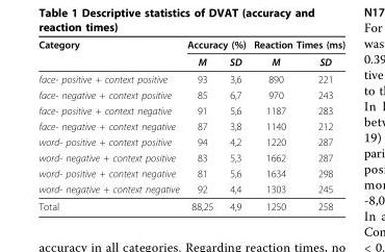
<table><thead><tr><td rowspan="2">Category</td><td colspan="2">Accuracy (%)</td><td colspan="2">Reaction Times (ms)</td></tr><tr><td>M</td><td>SD</td><td>M</td><td>SD</td></tr></thead><tbody><tr><td>face- positive + context positive</td><td>93</td><td>3,6</td><td>890</td><td>221</td></tr><tr><td>face- negative + context positive</td><td>85</td><td>6,7</td><td>970</td><td>243</td></tr><tr><td>face- positive + context negative</td><td>91</td><td>5,6</td><td>1187</td><td>283</td></tr><tr><td>face- negative + context negative</td><td>87</td><td>3,8</td><td>1140</td><td>212</td></tr><tr><td>word- positive + context positive</td><td>94</td><td>4,2</td><td>1220</td><td>287</td></tr><tr><td>word- negative + context positive</td><td>83</td><td>5,3</td><td>1662</td><td>287</td></tr><tr><td>word- positive + context negative</td><td>81</td><td>5,6</td><td>1634</td><td>298</td></tr><tr><td>word- negative + context negative</td><td>92</td><td>4,4</td><td>1303</td><td>245</td></tr><tr><td>Total</td><td>88,25</td><td>4,9</td><td>1250</td><td>258</td></tr></tbody></table>